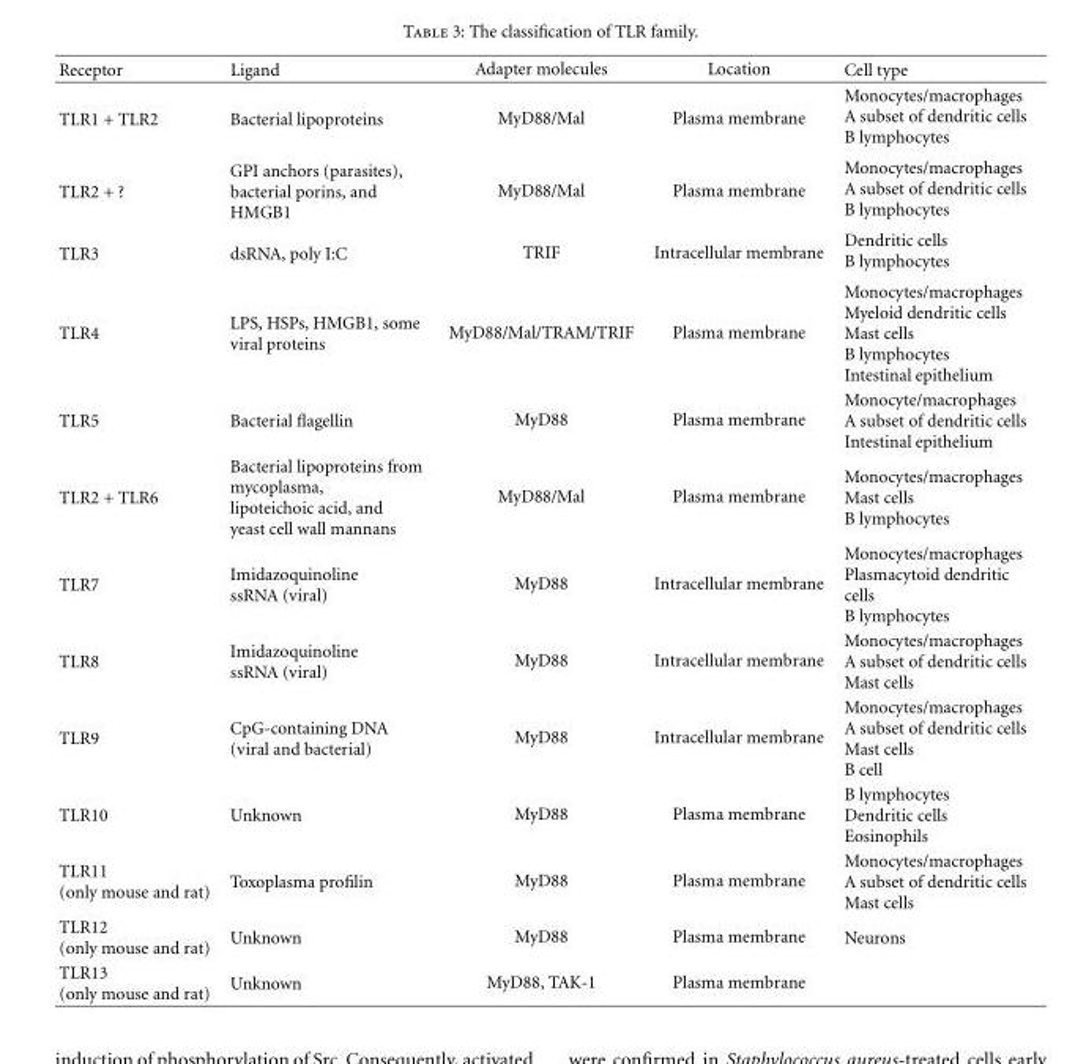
<table><thead><tr><td>Receptor</td><td>Ligand</td><td>Adapter molecules</td><td>Location</td><td>Cell type</td></tr></thead><tbody><tr><td>TLR1 + TLR2</td><td>Bacterial lipoproteins</td><td>MyD88/Mal</td><td>Plasma membrane</td><td>Monocytes/macrophages A subset of dendritic cells B lymphocytes</td></tr><tr><td>TLR2 + ?</td><td>GPI anchors (parasites), bacterial porins, and HMGB1</td><td>MyD88/Mal</td><td>Plasma membrane</td><td>Monocytes/macrophages A subset of dendritic cells B lymphocytes</td></tr><tr><td>TLR3</td><td>dsRNA, poly I:C</td><td>TRIF</td><td>Intracellular membrane</td><td>Dendritic cells B lymphocytes</td></tr><tr><td>TLR4</td><td>LPS, HSPs, HMGB1, some viral proteins</td><td>MyD88/Mal/TRAM/TRIF</td><td>Plasma membrane</td><td>Monocytes/macrophages Myeloid dendritic cells Mast cells B lymphocytes Intestinal epithelium</td></tr><tr><td>TLR5</td><td>Bacterial flagellin</td><td>MyD88</td><td>Plasma membrane</td><td>Monocyte/macrophages A subset of dendritic cells Intestinal epithelium</td></tr><tr><td>TLR2 + TLR6</td><td>Bacterial lipoproteins from mycoplasma, lipoteichoic acid, and yeast cell wall mannans</td><td>MyD88/Mal</td><td>Plasma membrane</td><td>Monocytes/macrophages Mast cells B lymphocytes</td></tr><tr><td>TLR7</td><td>Imidazoquinoline ssRNA (viral)</td><td>MyD88</td><td>Intracellular membrane</td><td>Monocytes/macrophages Plasmacytoid dendritic cells B lymphocytes</td></tr><tr><td>TLR8</td><td>Imidazoquinoline ssRNA (viral)</td><td>MyD88</td><td>Intracellular membrane</td><td>Monocytes/macrophages A subset of dendritic cells Mast cells</td></tr><tr><td>TLR9</td><td>CpG-containing DNA (viral and bacterial)</td><td>MyD88</td><td>Intracellular membrane</td><td>Monocytes/macrophages A subset of dendritic cells Mast cells B cell</td></tr><tr><td>TLR10</td><td>Unknown</td><td>MyD88</td><td>Plasma membrane</td><td>B lymphocytes Dendritic cells Eosinophils</td></tr><tr><td>TLR11 (only mouse and rat)</td><td>Toxoplasma profilin</td><td>MyD88</td><td>Plasma membrane</td><td>Monocytes/macrophages A subset of dendritic cells Mast cells</td></tr><tr><td>TLR12 (only mouse and rat)</td><td>Unknown</td><td>MyD88</td><td>Plasma membrane</td><td>Neurons</td></tr><tr><td>TLR13 (only mouse and rat)</td><td>Unknown</td><td>MyD88, TAK-1</td><td>Plasma membrane</td><td></td></tr></tbody></table>